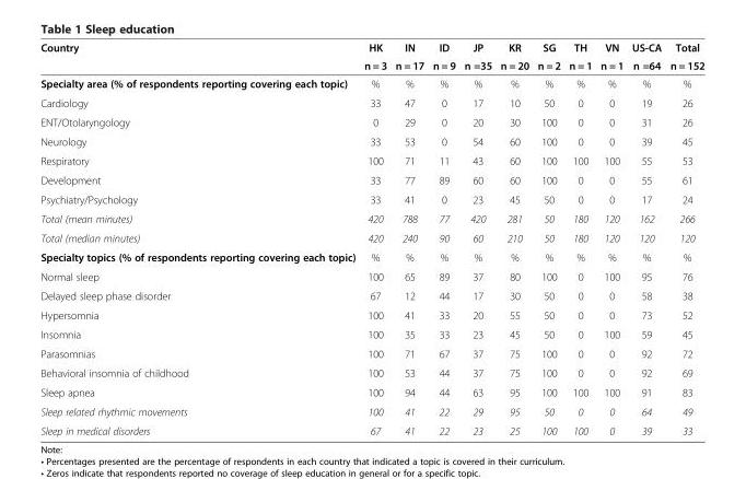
<table><thead><tr><td rowspan="2">Country</td><td rowspan="2">HK n = 3</td><td rowspan="2">IN n = 17</td><td rowspan="2">ID n = 9</td><td rowspan="2">JP n =35</td><td rowspan="2">KR n = 20</td><td rowspan="2">SG n = 2</td><td rowspan="2">TH n = 1</td><td rowspan="2">VN n = 1</td><td rowspan="2">US-CA n =64</td><td rowspan="2">Total n = 152</td></tr><tr></tr></thead><tbody><tr><td>Specialty area (% of respondents reporting covering each topic)</td><td>%</td><td>%</td><td>%</td><td>%</td><td>%</td><td>%</td><td>%</td><td>%</td><td>%</td><td>%</td></tr><tr><td>Cardiology</td><td>33</td><td>47</td><td>0</td><td>17</td><td>10</td><td>50</td><td>0</td><td>0</td><td>19</td><td>26</td></tr><tr><td>ENT/Otolaryngology</td><td>0</td><td>29</td><td>0</td><td>20</td><td>30</td><td>100</td><td>0</td><td>0</td><td>31</td><td>26</td></tr><tr><td>Neurology</td><td>33</td><td>53</td><td>0</td><td>54</td><td>60</td><td>100</td><td>0</td><td>0</td><td>39</td><td>45</td></tr><tr><td>Respiratory</td><td>100</td><td>71</td><td>11</td><td>43</td><td>60</td><td>100</td><td>100</td><td>100</td><td>55</td><td>53</td></tr><tr><td>Development</td><td>33</td><td>77</td><td>89</td><td>60</td><td>60</td><td>100</td><td>0</td><td>0</td><td>55</td><td>61</td></tr><tr><td>Psychiatry/Psychology</td><td>33</td><td>41</td><td>0</td><td>23</td><td>45</td><td>50</td><td>0</td><td>0</td><td>17</td><td>24</td></tr><tr><td>Total (mean minutes)</td><td>420</td><td>788</td><td>77</td><td>420</td><td>281</td><td>50</td><td>180</td><td>120</td><td>162</td><td>266</td></tr><tr><td>Total (median minutes)</td><td>420</td><td>240</td><td>90</td><td>60</td><td>210</td><td>50</td><td>180</td><td>120</td><td>120</td><td>120</td></tr><tr><td>Specialty topics (% of respondents reporting covering each topic)</td><td>%</td><td>%</td><td>%</td><td>%</td><td>%</td><td>%</td><td>%</td><td>%</td><td>%</td><td>%</td></tr><tr><td>Normal sleep</td><td>100</td><td>65</td><td>89</td><td>37</td><td>80</td><td>100</td><td>0</td><td>100</td><td>95</td><td>76</td></tr><tr><td>Delayed sleep phase disorder</td><td>67</td><td>12</td><td>44</td><td>17</td><td>30</td><td>50</td><td>0</td><td>0</td><td>58</td><td>38</td></tr><tr><td>Hypersomnia</td><td>100</td><td>41</td><td>33</td><td>20</td><td>55</td><td>50</td><td>0</td><td>0</td><td>73</td><td>52</td></tr><tr><td>Insomnia</td><td>100</td><td>35</td><td>33</td><td>23</td><td>45</td><td>50</td><td>0</td><td>100</td><td>59</td><td>45</td></tr><tr><td>Parasomnias</td><td>100</td><td>71</td><td>67</td><td>37</td><td>75</td><td>100</td><td>0</td><td>0</td><td>92</td><td>72</td></tr><tr><td>Behavioral insomnia of childhood</td><td>100</td><td>53</td><td>44</td><td>37</td><td>75</td><td>100</td><td>0</td><td>0</td><td>92</td><td>69</td></tr><tr><td>Sleep apnea</td><td>100</td><td>94</td><td>44</td><td>63</td><td>95</td><td>100</td><td>100</td><td>100</td><td>91</td><td>83</td></tr><tr><td>Sleep related rhythmic movements</td><td>100</td><td>41</td><td>22</td><td>29</td><td>95</td><td>50</td><td>0</td><td>0</td><td>64</td><td>49</td></tr><tr><td>Sleep in medical disorders</td><td>67</td><td>41</td><td>22</td><td>23</td><td>25</td><td>100</td><td>100</td><td>0</td><td>39</td><td>33</td></tr></tbody></table>